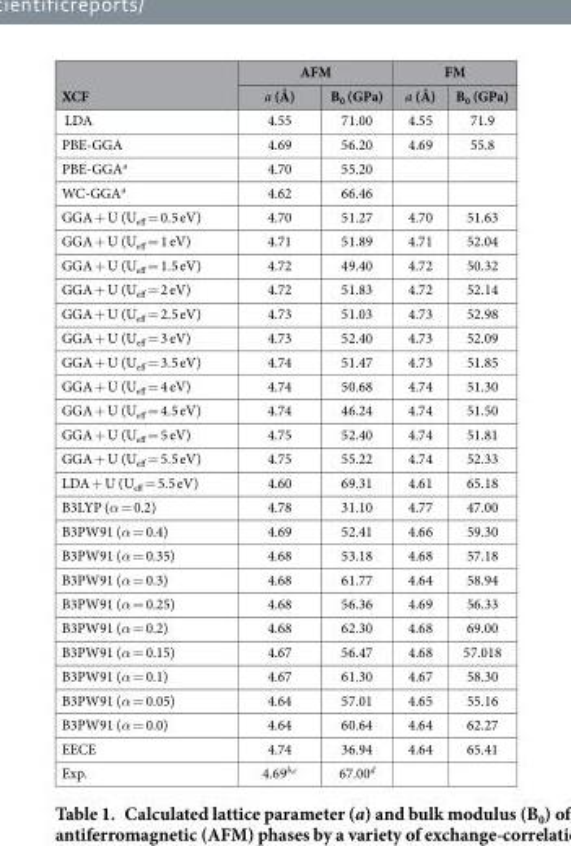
<table><thead><tr><td rowspan="2">XCF</td><td colspan="2">AFM</td><td colspan="2">FM</td></tr><tr><td>a (Å)</td><td>B<sub>0</sub> (GPa)</td><td>a (Å)</td><td>B<sub>0</sub> (GPa)</td></tr></thead><tbody><tr><td>LDA</td><td>4.55</td><td>71.00</td><td>4.55</td><td>71.9</td></tr><tr><td>PBE-GGA</td><td>4.69</td><td>56.20</td><td>4.69</td><td>55.8</td></tr><tr><td>PBE-GGA<sup>a</sup></td><td>4.70</td><td>55.20</td><td></td><td></td></tr><tr><td>WC-GGA<sup>a</sup></td><td>4.62</td><td>66.46</td><td></td><td></td></tr><tr><td>GGA + U (U<sub>eff</sub> = 0.5 eV)</td><td>4.70</td><td>51.27</td><td>4.70</td><td>51.63</td></tr><tr><td>GGA + U (U<sub>eff</sub> = 1 eV)</td><td>4.71</td><td>51.89</td><td>4.71</td><td>52.04</td></tr><tr><td>GGA + U (U<sub>eff</sub> = 1.5 eV)</td><td>4.72</td><td>49.40</td><td>4.72</td><td>50.32</td></tr><tr><td>GGA + U (U<sub>eff</sub> = 2 eV)</td><td>4.72</td><td>51.83</td><td>4.72</td><td>52.14</td></tr><tr><td>GGA + U (U<sub>eff</sub> = 2.5 eV)</td><td>4.73</td><td>51.03</td><td>4.73</td><td>52.98</td></tr><tr><td>GGA + U (U<sub>eff</sub> = 3 eV)</td><td>4.73</td><td>52.40</td><td>4.73</td><td>52.09</td></tr><tr><td>GGA + U (U<sub>eff</sub> = 3.5 eV)</td><td>4.74</td><td>51.47</td><td>4.73</td><td>51.85</td></tr><tr><td>GGA + U (U<sub>eff</sub> = 4 eV)</td><td>4.74</td><td>50.68</td><td>4.74</td><td>51.30</td></tr><tr><td>GGA + U (U<sub>eff</sub> = 4.5 eV)</td><td>4.74</td><td>46.24</td><td>4.74</td><td>51.50</td></tr><tr><td>GGA + U (U<sub>eff</sub> = 5 eV)</td><td>4.75</td><td>52.40</td><td>4.74</td><td>51.81</td></tr><tr><td>GGA + U (U<sub>eff</sub> = 5.5 eV)</td><td>4.75</td><td>55.22</td><td>4.74</td><td>52.33</td></tr><tr><td>LDA + U (U<sub>eff</sub> = 5.5 eV)</td><td>4.60</td><td>69.31</td><td>4.61</td><td>65.18</td></tr><tr><td>B3LYP (α = 0.2)</td><td>4.78</td><td>31.10</td><td>4.77</td><td>47.00</td></tr><tr><td>B3PW91 (α = 0.4)</td><td>4.69</td><td>52.41</td><td>4.66</td><td>59.30</td></tr><tr><td>B3PW91 (α = 0.35)</td><td>4.68</td><td>53.18</td><td>4.68</td><td>57.18</td></tr><tr><td>B3PW91 (α = 0.3)</td><td>4.68</td><td>61.77</td><td>4.64</td><td>58.94</td></tr><tr><td>B3PW91 (α = 0.25)</td><td>4.68</td><td>56.36</td><td>4.69</td><td>56.33</td></tr><tr><td>B3PW91 (α = 0.2)</td><td>4.68</td><td>62.30</td><td>4.68</td><td>69.00</td></tr><tr><td>B3PW91 (α = 0.15)</td><td>4.67</td><td>56.47</td><td>4.68</td><td>57.018</td></tr><tr><td>B3PW91 (α = 0.1)</td><td>4.67</td><td>61.30</td><td>4.67</td><td>58.30</td></tr><tr><td>B3PW91 (α = 0.05)</td><td>4.64</td><td>57.01</td><td>4.65</td><td>55.16</td></tr><tr><td>B3PW91 (α = 0.0)</td><td>4.64</td><td>60.64</td><td>4.64</td><td>62.27</td></tr><tr><td>EECE</td><td>4.74</td><td>36.94</td><td>4.64</td><td>65.41</td></tr><tr><td>Exp.</td><td>4.69b,<sup>c</sup></td><td>67.00<sup>d</sup></td><td></td><td></td></tr></tbody></table>